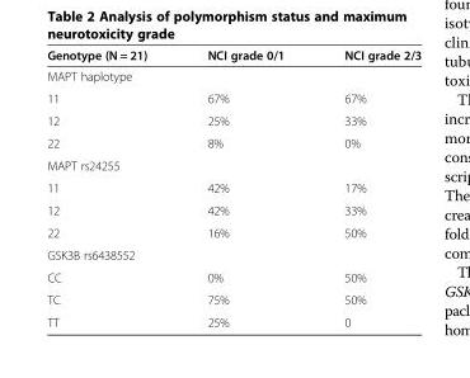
<table><thead><tr><td>Genotype (N = 21)</td><td>NCI grade 0/1</td><td>NCI grade 2/3</td></tr></thead><tbody><tr><td colspan="3">MAPT haplotype</td></tr><tr><td>11</td><td>67%</td><td>67%</td></tr><tr><td>12</td><td>25%</td><td>33%</td></tr><tr><td>22</td><td>8%</td><td>0%</td></tr><tr><td colspan="3">MAPT rs24255</td></tr><tr><td>11</td><td>42%</td><td>17%</td></tr><tr><td>12</td><td>42%</td><td>33%</td></tr><tr><td>22</td><td>16%</td><td>50%</td></tr><tr><td colspan="3">GSK3B rs6438552</td></tr><tr><td>CC</td><td>0%</td><td>50%</td></tr><tr><td>TC</td><td>75%</td><td>50%</td></tr><tr><td>TT</td><td>25%</td><td>0</td></tr></tbody></table>